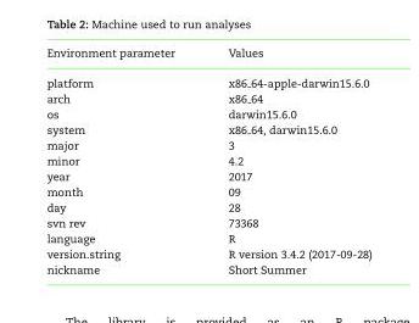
<table><thead><tr><td>Environment parameter</td><td>Values</td></tr></thead><tbody><tr><td>platform</td><td>x86 64-apple-darwin15.6.0</td></tr><tr><td>arch</td><td>x86 64</td></tr><tr><td>os</td><td>darwin15.6.0</td></tr><tr><td>system</td><td>x86 64, darwin15.6.0</td></tr><tr><td>major</td><td>3</td></tr><tr><td>minor</td><td>4.2</td></tr><tr><td>year</td><td>2017</td></tr><tr><td>month</td><td>09</td></tr><tr><td>day</td><td>28</td></tr><tr><td>svn rev</td><td>73368</td></tr><tr><td>language</td><td>R</td></tr><tr><td>version.string</td><td>R version 3.4.2 (2017-09-28)</td></tr><tr><td>nickname</td><td>Short Summer</td></tr></tbody></table>